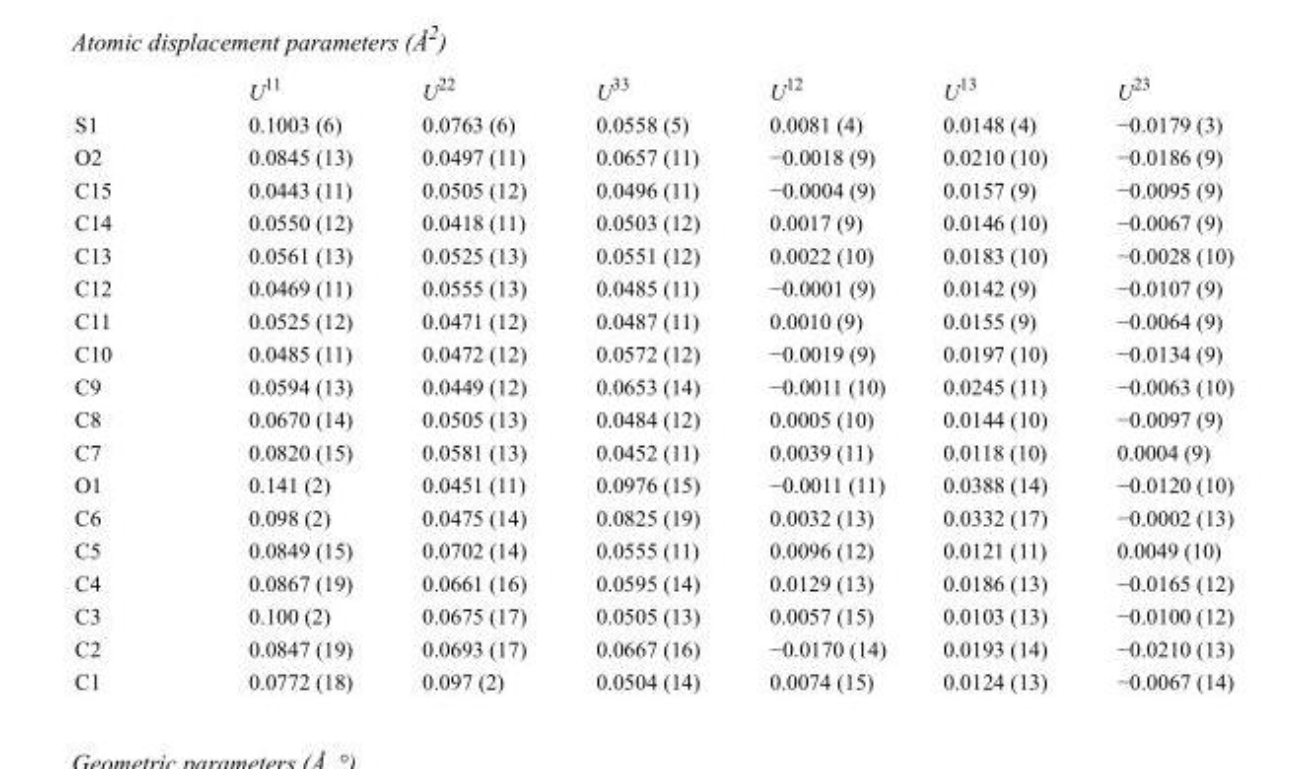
<table><thead><tr><td></td><td>U<sup>11</sup></td><td>U<sup>22</sup></td><td>U<sup>33</sup></td><td>U<sup>12</sup></td><td>U<sup>13</sup></td><td>U<sup>23</sup></td></tr></thead><tbody><tr><td>S1</td><td>0.1003 (6)</td><td>0.0763 (6)</td><td>0.0558 (5)</td><td>0.0081 (4)</td><td>0.0148 (4)</td><td>−0.0179 (3)</td></tr><tr><td>O2</td><td>0.0845 (13)</td><td>0.0497 (11)</td><td>0.0657 (11)</td><td>−0.0018 (9)</td><td>0.0210 (10)</td><td>−0.0186 (9)</td></tr><tr><td>C15</td><td>0.0443 (11)</td><td>0.0505 (12)</td><td>0.0496 (11)</td><td>−0.0004 (9)</td><td>0.0157 (9)</td><td>−0.0095 (9)</td></tr><tr><td>C14</td><td>0.0550 (12)</td><td>0.0418 (11)</td><td>0.0503 (12)</td><td>0.0017 (9)</td><td>0.0146 (10)</td><td>−0.0067 (9)</td></tr><tr><td>C13</td><td>0.0561 (13)</td><td>0.0525 (13)</td><td>0.0551 (12)</td><td>0.0022 (10)</td><td>0.0183 (10)</td><td>−0.0028 (10)</td></tr><tr><td>C12</td><td>0.0469 (11)</td><td>0.0555 (13)</td><td>0.0485 (11)</td><td>−0.0001 (9)</td><td>0.0142 (9)</td><td>−0.0107 (9)</td></tr><tr><td>C11</td><td>0.0525 (12)</td><td>0.0471 (12)</td><td>0.0487 (11)</td><td>0.0010 (9)</td><td>0.0155 (9)</td><td>−0.0064 (9)</td></tr><tr><td>C10</td><td>0.0485 (11)</td><td>0.0472 (12)</td><td>0.0572 (12)</td><td>−0.0019 (9)</td><td>0.0197 (10)</td><td>−0.0134 (9)</td></tr><tr><td>C9</td><td>0.0594 (13)</td><td>0.0449 (12)</td><td>0.0653 (14)</td><td>−0.0011 (10)</td><td>0.0245 (11)</td><td>−0.0063 (10)</td></tr><tr><td>C8</td><td>0.0670 (14)</td><td>0.0505 (13)</td><td>0.0484 (12)</td><td>0.0005 (10)</td><td>0.0144 (10)</td><td>−0.0097 (9)</td></tr><tr><td>C7</td><td>0.0820 (15)</td><td>0.0581 (13)</td><td>0.0452 (11)</td><td>0.0039 (11)</td><td>0.0118 (10)</td><td>0.0004 (9)</td></tr><tr><td>O1</td><td>0.141 (2)</td><td>0.0451 (11)</td><td>0.0976 (15)</td><td>−0.0011 (11)</td><td>0.0388 (14)</td><td>−0.0120 (10)</td></tr><tr><td>C6</td><td>0.098 (2)</td><td>0.0475 (14)</td><td>0.0825 (19)</td><td>0.0032 (13)</td><td>0.0332 (17)</td><td>−0.0002 (13)</td></tr><tr><td>C5</td><td>0.0849 (15)</td><td>0.0702 (14)</td><td>0.0555 (11)</td><td>0.0096 (12)</td><td>0.0121 (11)</td><td>0.0049 (10)</td></tr><tr><td>C4</td><td>0.0867 (19)</td><td>0.0661 (16)</td><td>0.0595 (14)</td><td>0.0129 (13)</td><td>0.0186 (13)</td><td>−0.0165 (12)</td></tr><tr><td>C3</td><td>0.100 (2)</td><td>0.0675 (17)</td><td>0.0505 (13)</td><td>0.0057 (15)</td><td>0.0103 (13)</td><td>−0.0100 (12)</td></tr><tr><td>C2</td><td>0.0847 (19)</td><td>0.0693 (17)</td><td>0.0667 (16)</td><td>−0.0170 (14)</td><td>0.0193 (14)</td><td>−0.0210 (13)</td></tr><tr><td>C1</td><td>0.0772 (18)</td><td>0.097 (2)</td><td>0.0504 (14)</td><td>0.0074 (15)</td><td>0.0124 (13)</td><td>−0.0067 (14)</td></tr></tbody></table>